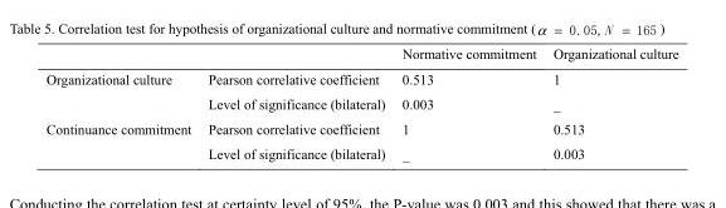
<table><thead><tr><td></td><td></td><td>Normative commitment</td><td>Organizational culture</td></tr></thead><tbody><tr><td rowspan="2">Organizational culture</td><td>Pearson correlative coefficient</td><td>0.513</td><td>1</td></tr><tr><td>Level of significance (bilateral)</td><td>0.003</td><td>_</td></tr><tr><td rowspan="2">Continuance commitment</td><td>Pearson correlative coefficient</td><td>1</td><td>0.513</td></tr><tr><td>Level of significance (bilateral)</td><td>_</td><td>0.003</td></tr></tbody></table>